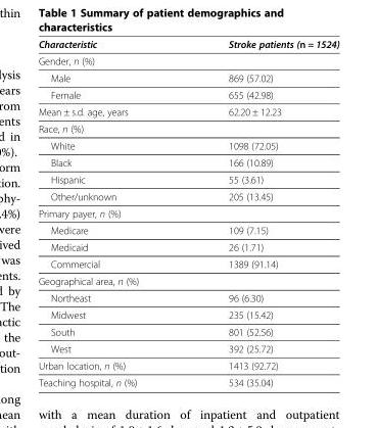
<table><thead><tr><td>Characteristic</td><td>Stroke patients (n = 1524)</td></tr></thead><tbody><tr><td colspan="2">Gender, n (%)</td></tr><tr><td>Male</td><td>869 (57.02)</td></tr><tr><td>Female</td><td>655 (42.98)</td></tr><tr><td>Mean ± s.d. age, years</td><td>62.20 ± 12.23</td></tr><tr><td colspan="2">Race, n (%)</td></tr><tr><td>White</td><td>1098 (72.05)</td></tr><tr><td>Black</td><td>166 (10.89)</td></tr><tr><td>Hispanic</td><td>55 (3.61)</td></tr><tr><td>Other/unknown</td><td>205 (13.45)</td></tr><tr><td colspan="2">Primary payer, n (%)</td></tr><tr><td>Medicare</td><td>109 (7.15)</td></tr><tr><td>Medicaid</td><td>26 (1.71)</td></tr><tr><td>Commercial</td><td>1389 (91.14)</td></tr><tr><td colspan="2">Geographical area, n (%)</td></tr><tr><td>Northeast</td><td>96 (6.30)</td></tr><tr><td>Midwest</td><td>235 (15.42)</td></tr><tr><td>South</td><td>801 (52.56)</td></tr><tr><td>West</td><td>392 (25.72)</td></tr><tr><td>Urban location, n (%)</td><td>1413 (92.72)</td></tr><tr><td>Teaching hospital, n (%)</td><td>534 (35.04)</td></tr></tbody></table>